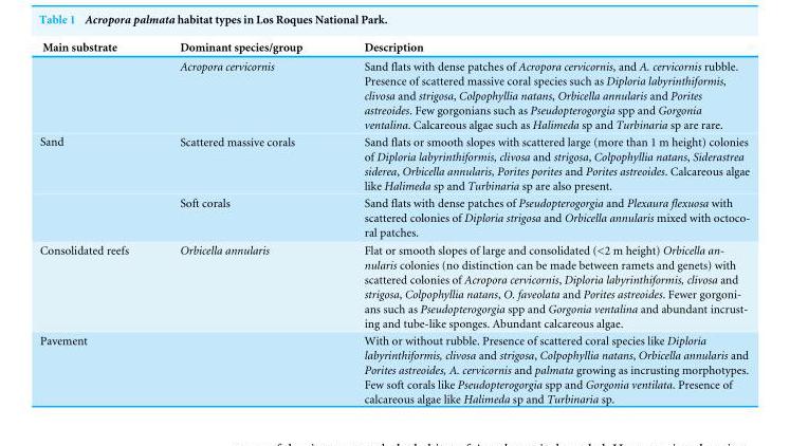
<table><thead><tr><td>Main substrate</td><td>Dominant species/group</td><td>Description</td></tr></thead><tbody><tr><td rowspan="3">Sand</td><td>Acropora cervicornis</td><td>Sand flats with dense patches of Acropora cervicornis, and A. cervicornis rubble. Presence of scattered massive coral species such as Diploria labyrinthiformis, clivosa and strigosa, Colpophyllia natans, Orbicella annularis and Porites astreoides. Few gorgonians such as Pseudopterogorgia spp and Gorgonia ventalina. Calcareous algae such as Halimeda sp and Turbinaria sp are rare.</td></tr><tr><td>Scattered massive corals</td><td>Sand flats or smooth slopes with scattered large (more than 1 m height) colonies of Diploria labyrinthiformis, clivosa and strigosa, Colpophyllia natans, Siderastrea siderea, Orbicella annularis, Porites porites and Porites astreoides. Calcareous algae like Halimeda sp and Turbinaria sp are also present.</td></tr><tr><td>Soft corals</td><td>Sand flats with dense patches of Pseudopterogorgia and Plexaura flexuosa with scattered colonies of Diploria strigosa and Orbicella annularis mixed with octoco- ral patches.</td></tr><tr><td>Consolidated reefs</td><td>Orbicella annularis</td><td>Flat or smooth slopes of large and consolidated (&lt;2 m height) Orbicella an- nularis colonies (no distinction can be made between ramets and genets) with scattered colonies of Acropora cervicornis, Diploria labyrinthiformis, clivosa and strigosa, Colpophyllia natans, O. faveolata and Porites astreoides. Fewer gorgoni- ans such as Pseudopterogorgia spp and Gorgonia ventalina and abundant incrust- ing and tube-like sponges. Abundant calcareous algae.</td></tr><tr><td>Pavement</td><td></td><td>With or without rubble. Presence of scattered coral species like Diploria labyrinthiformis, clivosa and strigosa, Colpophyllia natans, Orbicella annularis and Porites astreoides, A. cervicornis and palmata growing as incrusting morphotypes. Few soft corals like Pseudopterogorgia spp and Gorgonia ventilata. Presence of calcareous algae like Halimeda sp and Turbinaria sp.</td></tr></tbody></table>